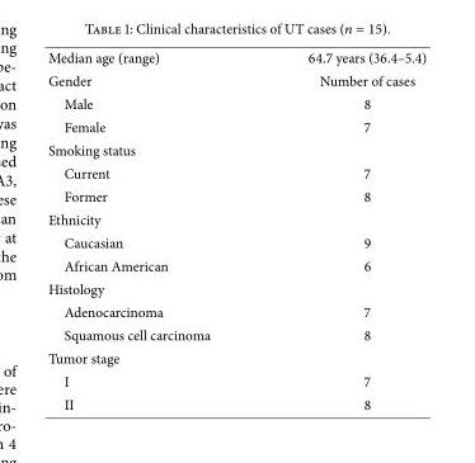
<table><tbody><tr><td>Median age (range)</td><td>64.7 years (36.4–5.4)</td></tr><tr><td>Gender</td><td>Number of cases</td></tr><tr><td>Male</td><td>8</td></tr><tr><td>Female</td><td>7</td></tr><tr><td colspan="2">Smoking status</td></tr><tr><td>Current</td><td>7</td></tr><tr><td>Former</td><td>8</td></tr><tr><td colspan="2">Ethnicity</td></tr><tr><td>Caucasian</td><td>9</td></tr><tr><td>African American</td><td>6</td></tr><tr><td colspan="2">Histology</td></tr><tr><td>Adenocarcinoma</td><td>7</td></tr><tr><td>Squamous cell carcinoma</td><td>8</td></tr><tr><td colspan="2">Tumor stage</td></tr><tr><td>I</td><td>7</td></tr><tr><td>II</td><td>8</td></tr></tbody></table>